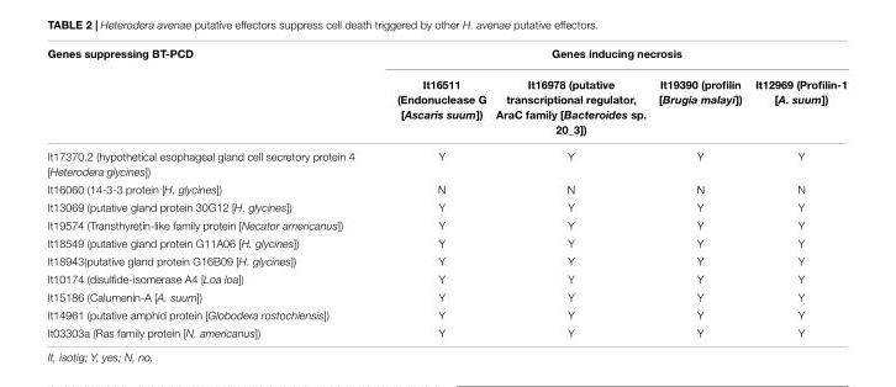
<table><thead><tr><td rowspan="2">Genes suppressing BT-PCD</td><td colspan="4">Genes inducing necrosis</td></tr><tr><td>It16511 (Endonuclease G [Ascaris suum])</td><td>It16978 (putative transcriptional regulator, AraC family [Bacteroides sp. 20_3])</td><td>It19390 (profilin [Brugia malayi])</td><td>It12969 (Profilin-1 [A. suum])</td></tr></thead><tbody><tr><td>It17370.2 (hypothetical esophageal gland cell secretory protein 4 [Heterodera glycines])</td><td>Y</td><td>Y</td><td>Y</td><td>Y</td></tr><tr><td>It16060 (14-3-3 protein [H. glycines])</td><td>N</td><td>N</td><td>N</td><td>N</td></tr><tr><td>It13069 (putative gland protein 30G12 [H. glycines])</td><td>Y</td><td>Y</td><td>Y</td><td>Y</td></tr><tr><td>It19574 (Transthyretin-like family protein [Necator americanus])</td><td>Y</td><td>Y</td><td>Y</td><td>Y</td></tr><tr><td>It18549 (putative gland protein G11A06 [H. glycines])</td><td>Y</td><td>Y</td><td>Y</td><td>Y</td></tr><tr><td>It18943(putative gland protein G16B09 [H. glycines])</td><td>Y</td><td>Y</td><td>Y</td><td>Y</td></tr><tr><td>It10174 (disulfide-isomerase A4 [Loa loa])</td><td>Y</td><td>Y</td><td>Y</td><td>Y</td></tr><tr><td>It15186 (Calumenin-A [A. suum])</td><td>Y</td><td>Y</td><td>Y</td><td>Y</td></tr><tr><td>It14961 (putative amphid protein [Globodera rostochiensis])</td><td>Y</td><td>Y</td><td>Y</td><td>Y</td></tr><tr><td>It03303a (Ras family protein [N. americanus])</td><td>Y</td><td>Y</td><td>Y</td><td>Y</td></tr></tbody></table>